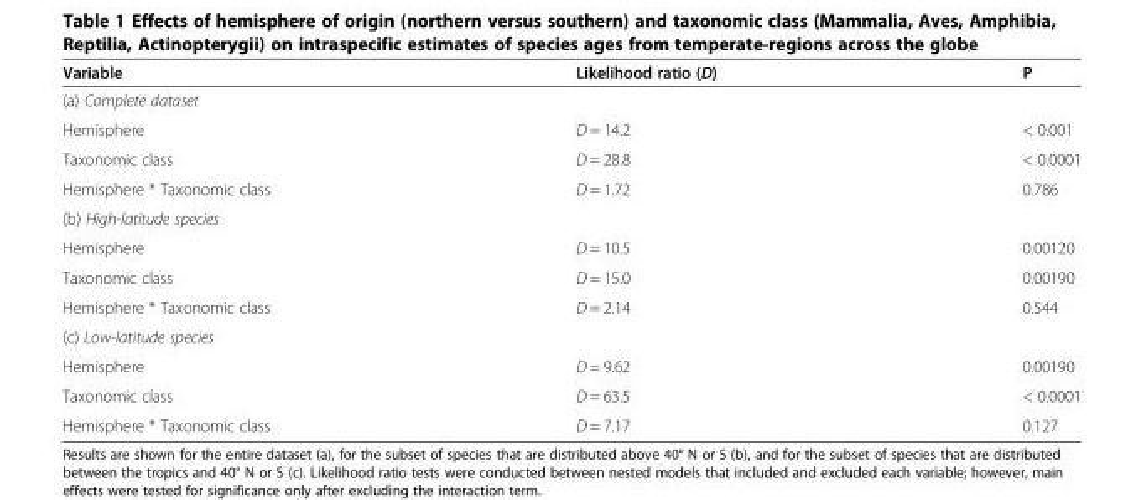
<table><thead><tr><td>Variable</td><td>Likelihood ratio (D)</td><td>P</td></tr></thead><tbody><tr><td colspan="3">(a) Complete dataset</td></tr><tr><td>Hemisphere</td><td>D = 14.2</td><td>&lt; 0.001</td></tr><tr><td>Taxonomic class</td><td>D = 28.8</td><td>&lt; 0.0001</td></tr><tr><td>Hemisphere * Taxonomic class</td><td>D = 1.72</td><td>0.786</td></tr><tr><td colspan="3">(b) High-latitude species</td></tr><tr><td>Hemisphere</td><td>D = 10.5</td><td>0.00120</td></tr><tr><td>Taxonomic class</td><td>D = 15.0</td><td>0.00190</td></tr><tr><td>Hemisphere * Taxonomic class</td><td>D = 2.14</td><td>0.544</td></tr><tr><td colspan="3">(c) Low-latitude species</td></tr><tr><td>Hemisphere</td><td>D = 9.62</td><td>0.00190</td></tr><tr><td>Taxonomic class</td><td>D = 63.5</td><td>&lt; 0.0001</td></tr><tr><td>Hemisphere * Taxonomic class</td><td>D = 7.17</td><td>0.127</td></tr></tbody></table>